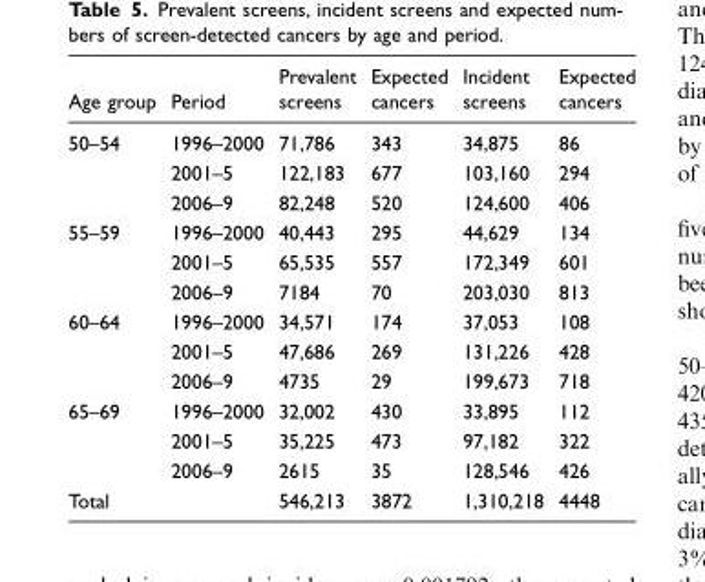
<table><thead><tr><td>Age group</td><td>Period</td><td>Prevalent screens</td><td>Expected cancers</td><td>Incident screens</td><td>Expected cancers</td></tr></thead><tbody><tr><td rowspan="3">50–54</td><td>1996–2000</td><td>71,786</td><td>343</td><td>34,875</td><td>86</td></tr><tr><td>2001–5</td><td>122,183</td><td>677</td><td>103,160</td><td>294</td></tr><tr><td>2006–9</td><td>82,248</td><td>520</td><td>124,600</td><td>406</td></tr><tr><td rowspan="3">55–59</td><td>1996–2000</td><td>40,443</td><td>295</td><td>44,629</td><td>134</td></tr><tr><td>2001–5</td><td>65,535</td><td>557</td><td>172,349</td><td>601</td></tr><tr><td>2006–9</td><td>7184</td><td>70</td><td>203,030</td><td>813</td></tr><tr><td rowspan="3">60–64</td><td>1996–2000</td><td>34,571</td><td>174</td><td>37,053</td><td>108</td></tr><tr><td>2001–5</td><td>47,686</td><td>269</td><td>131,226</td><td>428</td></tr><tr><td>2006–9</td><td>4735</td><td>29</td><td>199,673</td><td>718</td></tr><tr><td rowspan="3">65–69</td><td>1996–2000</td><td>32,002</td><td>430</td><td>33,895</td><td>112</td></tr><tr><td>2001–5</td><td>35,225</td><td>473</td><td>97,182</td><td>322</td></tr><tr><td>2006–9</td><td>2615</td><td>35</td><td>128,546</td><td>426</td></tr><tr><td colspan="2">Total</td><td>546,213</td><td>3872</td><td>1,310,218</td><td>4448</td></tr></tbody></table>